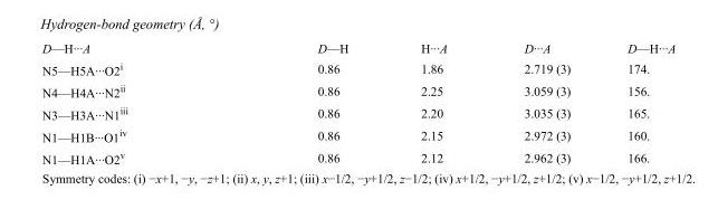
<table><tbody><tr><td>D—H···A</td><td>D—H</td><td>H···A</td><td>D···A</td><td>D—H···A</td></tr><tr><td>N5—H5A···O2<sup>i</sup></td><td>0.86</td><td>1.86</td><td>2.719 (3)</td><td>174.</td></tr><tr><td>N4—H4A···N2<sup>ii</sup></td><td>0.86</td><td>2.25</td><td>3.059 (3)</td><td>156.</td></tr><tr><td>N3—H3A···N1<sup>iii</sup></td><td>0.86</td><td>2.20</td><td>3.035 (3)</td><td>165.</td></tr><tr><td>N1—H1B···O1<sup>iv</sup></td><td>0.86</td><td>2.15</td><td>2.972 (3)</td><td>160.</td></tr><tr><td>N1—H1A···O2<sup>v</sup></td><td>0.86</td><td>2.12</td><td>2.962 (3)</td><td>166.</td></tr></tbody></table>